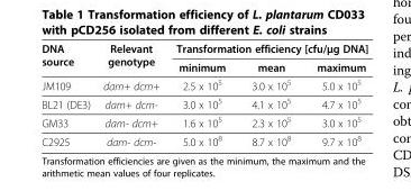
<table><thead><tr><td rowspan="2">DNA source</td><td rowspan="2">Relevant genotype</td><td colspan="3">Transformation efficiency [cfu/μg DNA]</td></tr><tr><td>minimum</td><td>mean</td><td>maximum</td></tr></thead><tbody><tr><td>JM109</td><td>dam+ dcm+</td><td>2.5 x 10<sup>5</sup></td><td>3.0 x 10<sup>5</sup></td><td>5.0 x 10<sup>5</sup></td></tr><tr><td>BL21 (DE3)</td><td>dam+ dcm-</td><td>3.0 x 10<sup>5</sup></td><td>4.1 x 10<sup>5</sup></td><td>4.7 x 10<sup>5</sup></td></tr><tr><td>GM33</td><td>dam- dcm+</td><td>1.6 x 10<sup>5</sup></td><td>2.3 x 10<sup>5</sup></td><td>3.0 x 10<sup>5</sup></td></tr><tr><td>C2925</td><td>dam- dcm-</td><td>5.0 x 10<sup>8</sup></td><td>8.7 x 10<sup>8</sup></td><td>9.7 x 10<sup>8</sup></td></tr></tbody></table>